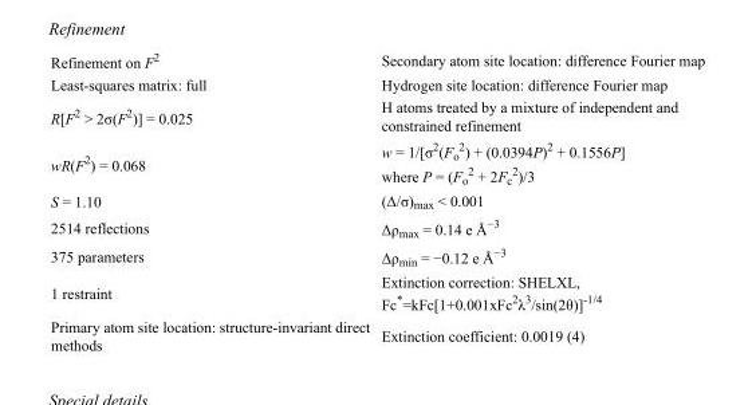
<table><tbody><tr><td>Refinement on F<sup>2</sup></td><td>Secondary atom site location: difference Fourier map</td></tr><tr><td>Least-squares matrix: full</td><td>Hydrogen site location: difference Fourier map</td></tr><tr><td>R[F<sup>2</sup> &gt; 2σ(F<sup>2</sup>)] = 0.025</td><td>H atoms treated by a mixture of independent and constrained refinement</td></tr><tr><td>wR(F<sup>2</sup>) = 0.068</td><td>w = 1/[σ<sup>2</sup>(F<sub>o</sub> <sup>2</sup>) + (0.0394P)<sup>2</sup> + 0.1556P] where P = (F<sub>o</sub> <sup>2</sup> + 2F<sub>c</sub> <sup>2</sup>)/3</td></tr><tr><td>S = 1.10</td><td>(Δ/σ)<sub>max</sub> &lt; 0.001</td></tr><tr><td>2514 reflections</td><td>Δρ<sub>max</sub> = 0.14 e Å<sup>−3</sup></td></tr><tr><td>375 parameters</td><td>Δρ<sub>min</sub> = −0.12 e Å<sup>−3</sup></td></tr><tr><td>1 restraint</td><td>Extinction correction: SHELXL, Fc*=kFc[1+0.001xFc<sup>2</sup>λ<sup>3</sup>/sin(2θ)]<sup>-1/4</sup></td></tr><tr><td>Primary atom site location: structure-invariant direct methods</td><td>Extinction coefficient: 0.0019 (4)</td></tr></tbody></table>